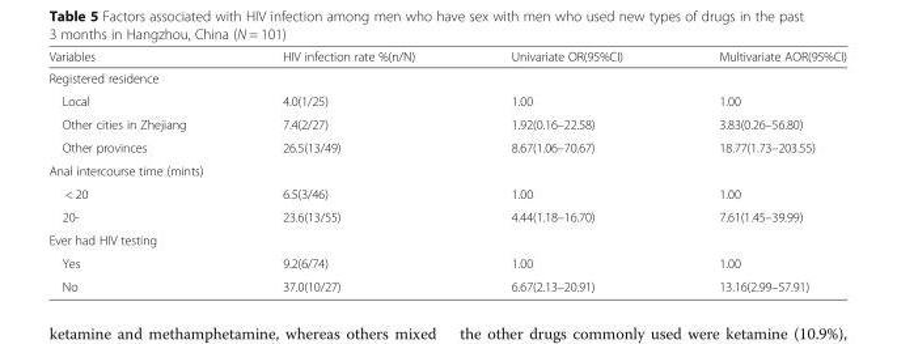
<table><thead><tr><td>Variables</td><td>HIV infection rate %(n/N)</td><td>Univariate OR(95%CI)</td><td>Multivariate AOR(95%CI)</td></tr></thead><tbody><tr><td colspan="4">Registered residence</td></tr><tr><td>Local</td><td>4.0(1/25)</td><td>1.00</td><td>1.00</td></tr><tr><td>Other cities in Zhejiang</td><td>7.4(2/27)</td><td>1.92(0.16–22.58)</td><td>3.83(0.26–56.80)</td></tr><tr><td>Other provinces</td><td>26.5(13/49)</td><td>8.67(1.06–70.67)</td><td>18.77(1.73–203.55)</td></tr><tr><td colspan="4">Anal intercourse time (mints)</td></tr><tr><td>&lt; 20</td><td>6.5(3/46)</td><td>1.00</td><td>1.00</td></tr><tr><td>20-</td><td>23.6(13/55)</td><td>4.44(1.18–16.70)</td><td>7.61(1.45–39.99)</td></tr><tr><td colspan="4">Ever had HIV testing</td></tr><tr><td>Yes</td><td>9.2(6/74)</td><td>1.00</td><td>1.00</td></tr><tr><td>No</td><td>37.0(10/27)</td><td>6.67(2.13–20.91)</td><td>13.16(2.99–57.91)</td></tr></tbody></table>